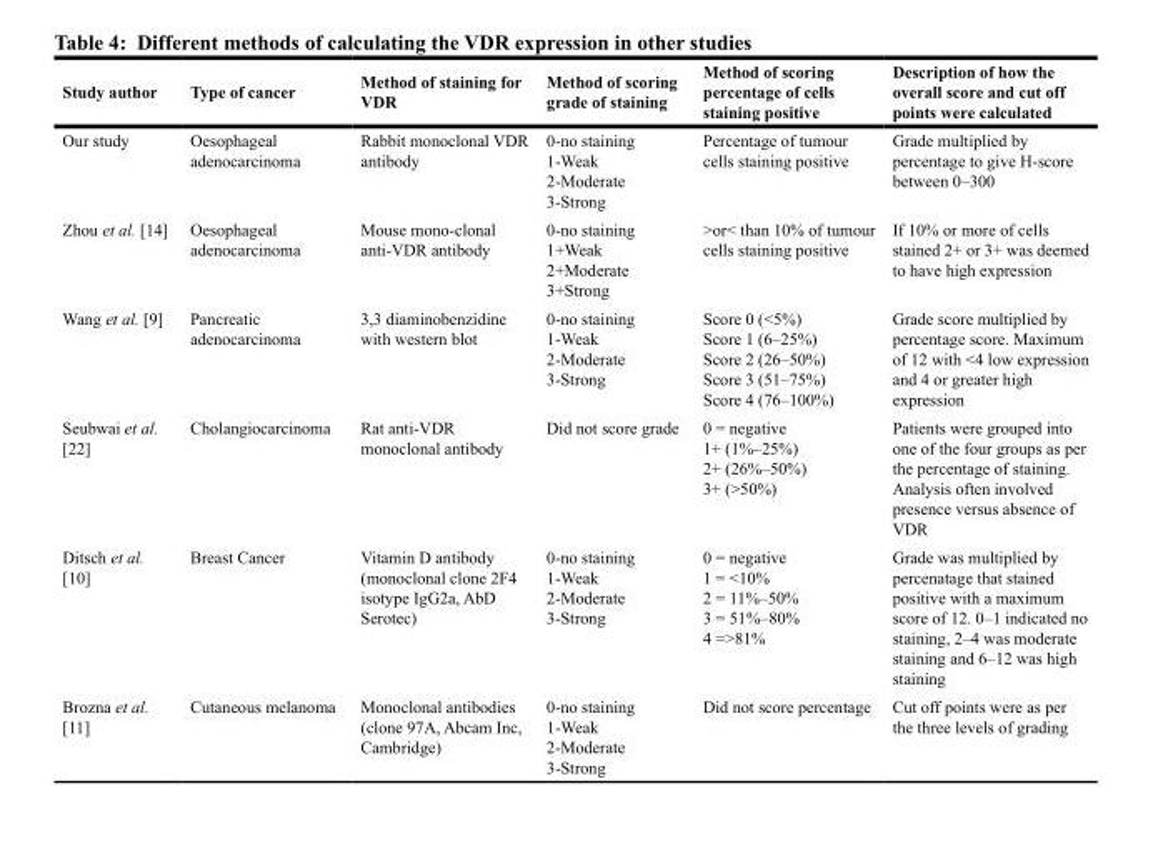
<table><thead><tr><td>Study author</td><td>Type of cancer</td><td>Method of staining for VDR</td><td>Method of scoring grade of staining</td><td>Method of scoring percentage of cells staining positive</td><td>Description of how the overall score and cut off points were calculated</td></tr></thead><tbody><tr><td>Our study</td><td>Oesophageal adenocarcinoma</td><td>Rabbit monoclonal VDR antibody</td><td>0-no staining 1-Weak 2-Moderate 3-Strong</td><td>Percentage of tumour cells staining positive</td><td>Grade multiplied by percentage to give H-score between 0–300</td></tr><tr><td>Zhou et al. [14]</td><td>Oesophageal adenocarcinoma</td><td>Mouse mono-clonal anti-VDR antibody</td><td>0-no staining 1+Weak 2+Moderate 3+Strong</td><td>&gt;or&lt; than 10% of tumour cells staining positive</td><td>If 10% or more of cells stained 2+ or 3+ was deemed to have high expression</td></tr><tr><td>Wang et al. [9]</td><td>Pancreatic adenocarcinoma</td><td>3,3 diaminobenzidine with western blot</td><td>0-no staining 1-Weak 2-Moderate 3-Strong</td><td>Score 0 (&lt;5%) Score 1 (6–25%) Score 2 (26–50%) Score 3 (51–75%) Score 4 (76–100%)</td><td>Grade score multiplied by percentage score. Maximum of 12 with &lt;4 low expression and 4 or greater high expression</td></tr><tr><td>Seubwai et al. [22]</td><td>Cholangiocarcinoma</td><td>Rat anti-VDR monoclonal antibody</td><td>Did not score grade</td><td>0 = negative 1+ (1%–25%) 2+ (26%–50%) 3+ (&gt;50%)</td><td>Patients were grouped into one of the four groups as per the percentage of staining. Analysis often involved presence versus absence of VDR</td></tr><tr><td>Ditsch et al. [10]</td><td>Breast Cancer</td><td>Vitamin D antibody (monoclonal clone 2F4 isotype IgG2a, AbD Serotec)</td><td>0-no staining 1-Weak 2-Moderate 3-Strong</td><td>0 = negative 1 = &lt;10% 2 = 11%–50% 3 = 51%–80% 4 =&gt;81%</td><td>Grade was multiplied by percenatage that stained positive with a maximum score of 12. 0–1 indicated no staining, 2–4 was moderate staining and 6–12 was high staining</td></tr><tr><td>Brozna et al. [11]</td><td>Cutaneous melanoma</td><td>Monoclonal antibodies (clone 97A, Abcam Inc, Cambridge)</td><td>0-no staining 1-Weak 2-Moderate 3-Strong</td><td>Did not score percentage</td><td>Cut off points were as per the three levels of grading</td></tr></tbody></table>